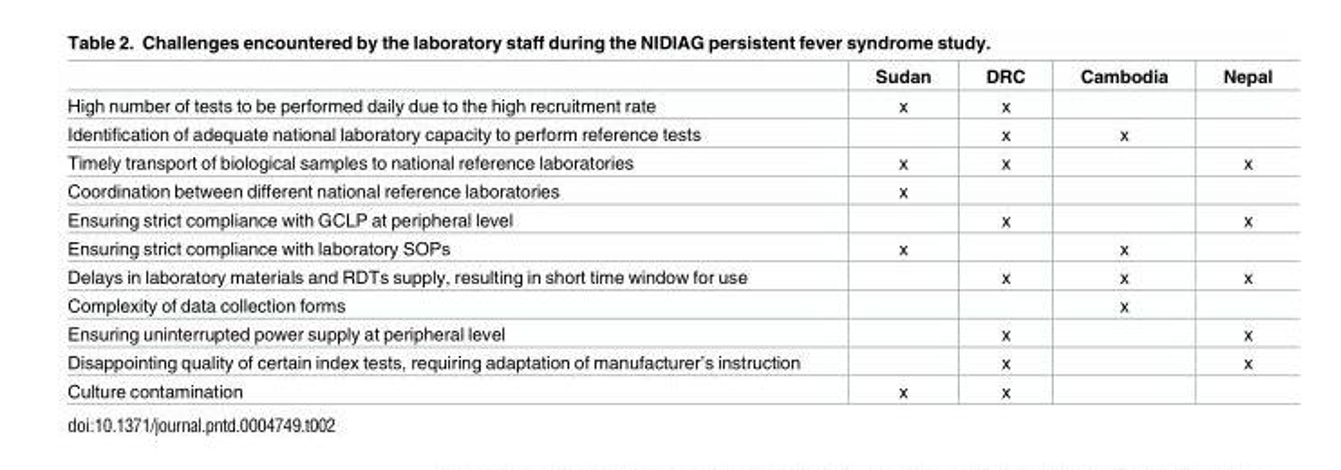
<table><thead><tr><td></td><td>Sudan</td><td>DRC</td><td>Cambodia</td><td>Nepal</td></tr></thead><tbody><tr><td>High number of tests to be performed daily due to the high recruitment rate</td><td>x</td><td>x</td><td></td><td></td></tr><tr><td>Identification of adequate national laboratory capacity to perform reference tests</td><td></td><td>x</td><td>x</td><td></td></tr><tr><td>Timely transport of biological samples to national reference laboratories</td><td>x</td><td>x</td><td></td><td>x</td></tr><tr><td>Coordination between different national reference laboratories</td><td>x</td><td></td><td></td><td></td></tr><tr><td>Ensuring strict compliance with GCLP at peripheral level</td><td></td><td>x</td><td></td><td>x</td></tr><tr><td>Ensuring strict compliance with laboratory SOPs</td><td>x</td><td></td><td>x</td><td></td></tr><tr><td>Delays in laboratory materials and RDTs supply, resulting in short time window for use</td><td></td><td>x</td><td>x</td><td>x</td></tr><tr><td>Complexity of data collection forms</td><td></td><td></td><td>x</td><td></td></tr><tr><td>Ensuring uninterrupted power supply at peripheral level</td><td></td><td>x</td><td></td><td>x</td></tr><tr><td>Disappointing quality of certain index tests, requiring adaptation of manufacturer’s instruction</td><td></td><td>x</td><td></td><td>x</td></tr><tr><td>Culture contamination</td><td>x</td><td>x</td><td></td><td></td></tr></tbody></table>